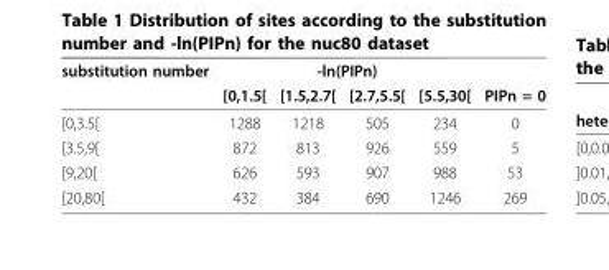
<table><thead><tr><td rowspan="2">substitution number</td><td colspan="4">-ln(PIPn)</td><td rowspan="2">PIPn = 0</td></tr><tr><td>[0,1.5[</td><td>[1.5,2.7[</td><td>[2.7,5.5[</td><td>[5.5,30[</td></tr></thead><tbody><tr><td>[0,3.5[</td><td>1288</td><td>1218</td><td>505</td><td>234</td><td>0</td></tr><tr><td>[3.5,9[</td><td>872</td><td>813</td><td>926</td><td>559</td><td>5</td></tr><tr><td>[9,20[</td><td>626</td><td>593</td><td>907</td><td>988</td><td>53</td></tr><tr><td>[20,80[</td><td>432</td><td>384</td><td>690</td><td>1246</td><td>269</td></tr></tbody></table>